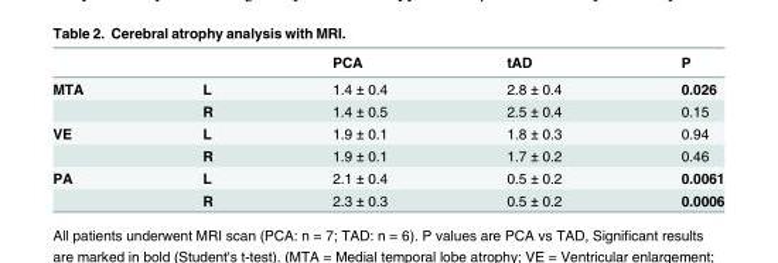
<table><thead><tr><td></td><td></td><td>PCA</td><td>tAD</td><td>P</td></tr></thead><tbody><tr><td rowspan="2">MTA</td><td>L</td><td>1.4 ± 0.4</td><td>2.8 ± 0.4</td><td>0.026</td></tr><tr><td>R</td><td>1.4 ± 0.5</td><td>2.5 ± 0.4</td><td>0.15</td></tr><tr><td rowspan="2">VE</td><td>L</td><td>1.9 ± 0.1</td><td>1.8 ± 0.3</td><td>0.94</td></tr><tr><td>R</td><td>1.9 ± 0.1</td><td>1.7 ± 0.2</td><td>0.46</td></tr><tr><td rowspan="2">PA</td><td>L</td><td>2.1 ± 0.4</td><td>0.5 ± 0.2</td><td>0.0061</td></tr><tr><td>R</td><td>2.3 ± 0.3</td><td>0.5 ± 0.2</td><td>0.0006</td></tr></tbody></table>